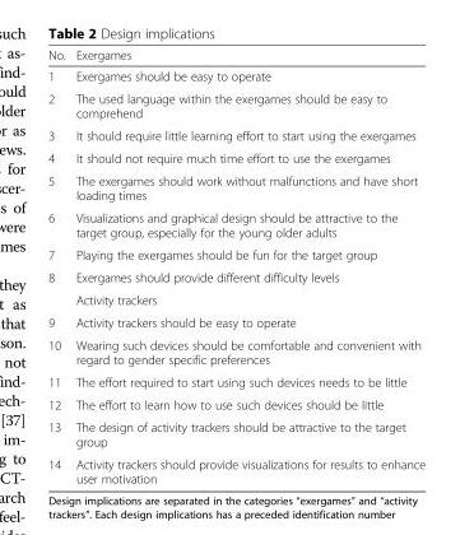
<table><thead><tr><td>No.</td><td>Exergames</td></tr></thead><tbody><tr><td>1</td><td>Exergames should be easy to operate</td></tr><tr><td>2</td><td>The used language within the exergames should be easy to comprehend</td></tr><tr><td>3</td><td>It should require little learning effort to start using the exergames</td></tr><tr><td>4</td><td>It should not require much time effort to use the exergames</td></tr><tr><td>5</td><td>The exergames should work without malfunctions and have short loading times</td></tr><tr><td>6</td><td>Visualizations and graphical design should be attractive to the target group, especially for the young older adults</td></tr><tr><td>7</td><td>Playing the exergames should be fun for the target group</td></tr><tr><td rowspan="2">8</td><td>Exergames should provide different difficulty levels</td></tr><tr><td>Activity trackers</td></tr><tr><td>9</td><td>Activity trackers should be easy to operate</td></tr><tr><td>10</td><td>Wearing such devices should be comfortable and convenient with regard to gender specific preferences</td></tr><tr><td>11</td><td>The effort required to start using such devices needs to be little</td></tr><tr><td>12</td><td>The effort to learn how to use such devices should be little</td></tr><tr><td>13</td><td>The design of activity trackers should be attractive to the target group</td></tr><tr><td>14</td><td>Activity trackers should provide visualizations for results to enhance user motivation</td></tr></tbody></table>